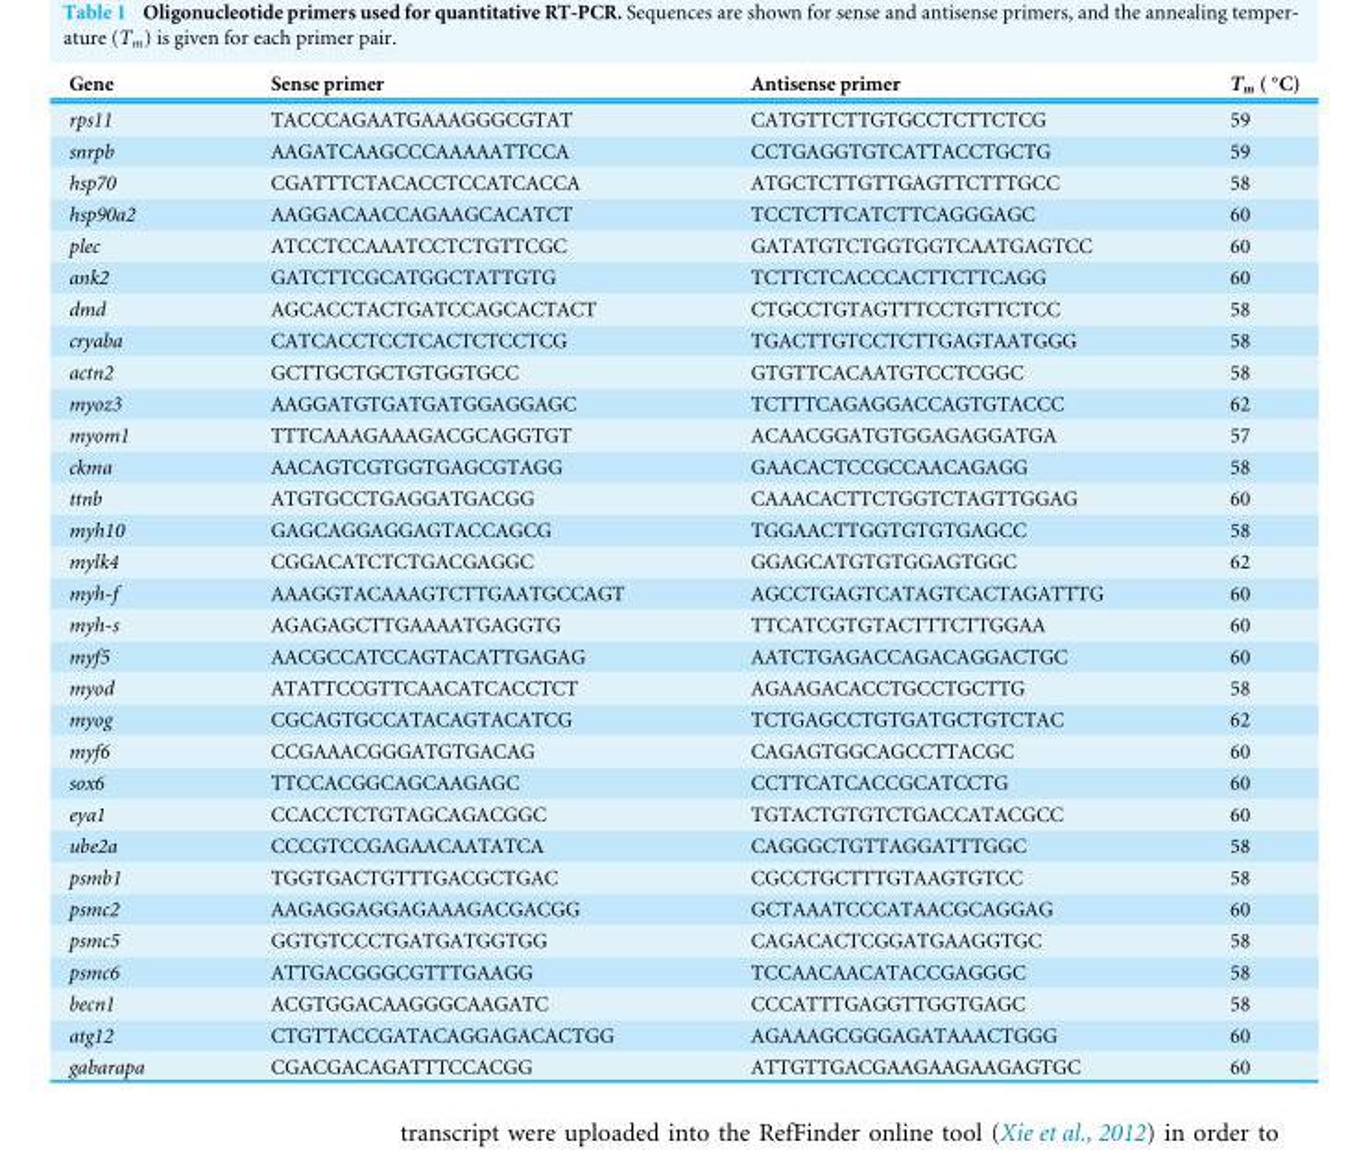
<table><thead><tr><td>Gene</td><td>Sense primer</td><td>Antisense primer</td><td>Tm ( ◦C)</td></tr></thead><tbody><tr><td>rps11</td><td>TACCCAGAATGAAAGGGCGTAT</td><td>CATGTTCTTGTGCCTCTTCTCG</td><td>59</td></tr><tr><td>snrpb</td><td>AAGATCAAGCCCAAAAATTCCA</td><td>CCTGAGGTGTCATTACCTGCTG</td><td>59</td></tr><tr><td>hsp70</td><td>CGATTTCTACACCTCCATCACCA</td><td>ATGCTCTTGTTGAGTTCTTTGCC</td><td>58</td></tr><tr><td>hsp90a2</td><td>AAGGACAACCAGAAGCACATCT</td><td>TCCTCTTCATCTTCAGGGAGC</td><td>60</td></tr><tr><td>plec</td><td>ATCCTCCAAATCCTCTGTTCGC</td><td>GATATGTCTGGTGGTCAATGAGTCC</td><td>60</td></tr><tr><td>ank2</td><td>GATCTTCGCATGGCTATTGTG</td><td>TCTTCTCACCCACTTCTTCAGG</td><td>60</td></tr><tr><td>dmd</td><td>AGCACCTACTGATCCAGCACTACT</td><td>CTGCCTGTAGTTTCCTGTTCTCC</td><td>58</td></tr><tr><td>cryaba</td><td>CATCACCTCCTCACTCTCCTCG</td><td>TGACTTGTCCTCTTGAGTAATGGG</td><td>58</td></tr><tr><td>actn2</td><td>GCTTGCTGCTGTGGTGCC</td><td>GTGTTCACAATGTCCTCGGC</td><td>58</td></tr><tr><td>myoz3</td><td>AAGGATGTGATGATGGAGGAGC</td><td>TCTTTCAGAGGACCAGTGTACCC</td><td>62</td></tr><tr><td>myom1</td><td>TTTCAAAGAAAGACGCAGGTGT</td><td>ACAACGGATGTGGAGAGGATGA</td><td>57</td></tr><tr><td>ckma</td><td>AACAGTCGTGGTGAGCGTAGG</td><td>GAACACTCCGCCAACAGAGG</td><td>58</td></tr><tr><td>ttnb</td><td>ATGTGCCTGAGGATGACGG</td><td>CAAACACTTCTGGTCTAGTTGGAG</td><td>60</td></tr><tr><td>myh10</td><td>GAGCAGGAGGAGTACCAGCG</td><td>TGGAACTTGGTGTGTGAGCC</td><td>58</td></tr><tr><td>mylk4</td><td>CGGACATCTCTGACGAGGC</td><td>GGAGCATGTGTGGAGTGGC</td><td>62</td></tr><tr><td>myh-f</td><td>AAAGGTACAAAGTCTTGAATGCCAGT</td><td>AGCCTGAGTCATAGTCACTAGATTTG</td><td>60</td></tr><tr><td>myh-s</td><td>AGAGAGCTTGAAAATGAGGTG</td><td>TTCATCGTGTACTTTCTTGGAA</td><td>60</td></tr><tr><td>myf5</td><td>AACGCCATCCAGTACATTGAGAG</td><td>AATCTGAGACCAGACAGGACTGC</td><td>60</td></tr><tr><td>myod</td><td>ATATTCCGTTCAACATCACCTCT</td><td>AGAAGACACCTGCCTGCTTG</td><td>58</td></tr><tr><td>myog</td><td>CGCAGTGCCATACAGTACATCG</td><td>TCTGAGCCTGTGATGCTGTCTAC</td><td>62</td></tr><tr><td>myf6</td><td>CCGAAACGGGATGTGACAG</td><td>CAGAGTGGCAGCCTTACGC</td><td>60</td></tr><tr><td>sox6</td><td>TTCCACGGCAGCAAGAGC</td><td>CCTTCATCACCGCATCCTG</td><td>60</td></tr><tr><td>eya1</td><td>CCACCTCTGTAGCAGACGGC</td><td>TGTACTGTGTCTGACCATACGCC</td><td>60</td></tr><tr><td>ube2a</td><td>CCCGTCCGAGAACAATATCA</td><td>CAGGGCTGTTAGGATTTGGC</td><td>58</td></tr><tr><td>psmb1</td><td>TGGTGACTGTTTGACGCTGAC</td><td>CGCCTGCTTTGTAAGTGTCC</td><td>58</td></tr><tr><td>psmc2</td><td>AAGAGGAGGAGAAAGACGACGG</td><td>GCTAAATCCCATAACGCAGGAG</td><td>60</td></tr><tr><td>psmc5</td><td>GGTGTCCCTGATGATGGTGG</td><td>CAGACACTCGGATGAAGGTGC</td><td>58</td></tr><tr><td>psmc6</td><td>ATTGACGGGCGTTTGAAGG</td><td>TCCAACAACATACCGAGGGC</td><td>58</td></tr><tr><td>becn1</td><td>ACGTGGACAAGGGCAAGATC</td><td>CCCATTTGAGGTTGGTGAGC</td><td>58</td></tr><tr><td>atg12</td><td>CTGTTACCGATACAGGAGACACTGG</td><td>AGAAAGCGGGAGATAAACTGGG</td><td>60</td></tr><tr><td>gabarapa</td><td>CGACGACAGATTTCCACGG</td><td>ATTGTTGACGAAGAAGAAGAGTGC</td><td>60</td></tr></tbody></table>